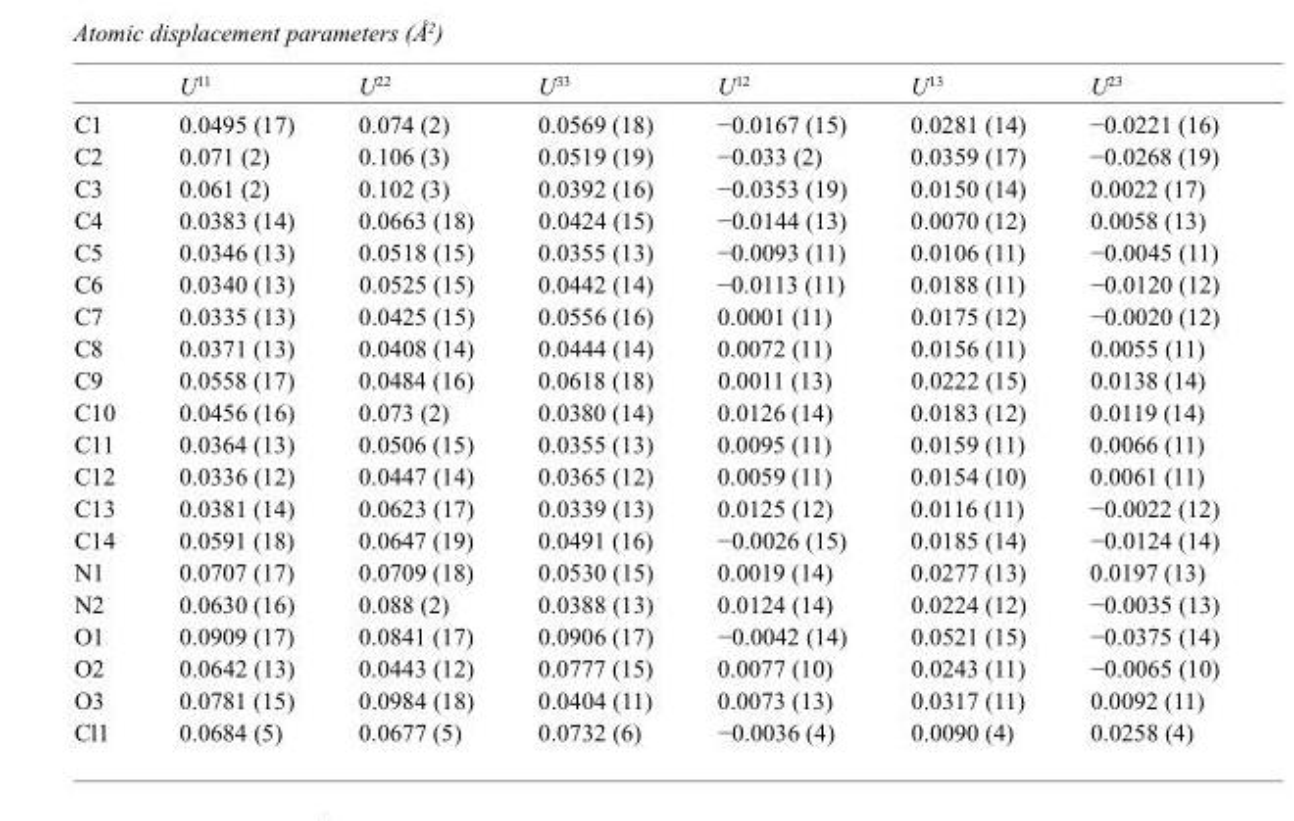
<table><thead><tr><td></td><td>U<sup>11</sup></td><td>U<sup>22</sup></td><td>U<sup>33</sup></td><td>U<sup>12</sup></td><td>U<sup>13</sup></td><td>U<sup>23</sup></td></tr></thead><tbody><tr><td>C1</td><td>0.0495 (17)</td><td>0.074 (2)</td><td>0.0569 (18)</td><td>−0.0167 (15)</td><td>0.0281 (14)</td><td>−0.0221 (16)</td></tr><tr><td>C2</td><td>0.071 (2)</td><td>0.106 (3)</td><td>0.0519 (19)</td><td>−0.033 (2)</td><td>0.0359 (17)</td><td>−0.0268 (19)</td></tr><tr><td>C3</td><td>0.061 (2)</td><td>0.102 (3)</td><td>0.0392 (16)</td><td>−0.0353 (19)</td><td>0.0150 (14)</td><td>0.0022 (17)</td></tr><tr><td>C4</td><td>0.0383 (14)</td><td>0.0663 (18)</td><td>0.0424 (15)</td><td>−0.0144 (13)</td><td>0.0070 (12)</td><td>0.0058 (13)</td></tr><tr><td>C5</td><td>0.0346 (13)</td><td>0.0518 (15)</td><td>0.0355 (13)</td><td>−0.0093 (11)</td><td>0.0106 (11)</td><td>−0.0045 (11)</td></tr><tr><td>C6</td><td>0.0340 (13)</td><td>0.0525 (15)</td><td>0.0442 (14)</td><td>−0.0113 (11)</td><td>0.0188 (11)</td><td>−0.0120 (12)</td></tr><tr><td>C7</td><td>0.0335 (13)</td><td>0.0425 (15)</td><td>0.0556 (16)</td><td>0.0001 (11)</td><td>0.0175 (12)</td><td>−0.0020 (12)</td></tr><tr><td>C8</td><td>0.0371 (13)</td><td>0.0408 (14)</td><td>0.0444 (14)</td><td>0.0072 (11)</td><td>0.0156 (11)</td><td>0.0055 (11)</td></tr><tr><td>C9</td><td>0.0558 (17)</td><td>0.0484 (16)</td><td>0.0618 (18)</td><td>0.0011 (13)</td><td>0.0222 (15)</td><td>0.0138 (14)</td></tr><tr><td>C10</td><td>0.0456 (16)</td><td>0.073 (2)</td><td>0.0380 (14)</td><td>0.0126 (14)</td><td>0.0183 (12)</td><td>0.0119 (14)</td></tr><tr><td>C11</td><td>0.0364 (13)</td><td>0.0506 (15)</td><td>0.0355 (13)</td><td>0.0095 (11)</td><td>0.0159 (11)</td><td>0.0066 (11)</td></tr><tr><td>C12</td><td>0.0336 (12)</td><td>0.0447 (14)</td><td>0.0365 (12)</td><td>0.0059 (11)</td><td>0.0154 (10)</td><td>0.0061 (11)</td></tr><tr><td>C13</td><td>0.0381 (14)</td><td>0.0623 (17)</td><td>0.0339 (13)</td><td>0.0125 (12)</td><td>0.0116 (11)</td><td>−0.0022 (12)</td></tr><tr><td>C14</td><td>0.0591 (18)</td><td>0.0647 (19)</td><td>0.0491 (16)</td><td>−0.0026 (15)</td><td>0.0185 (14)</td><td>−0.0124 (14)</td></tr><tr><td>N1</td><td>0.0707 (17)</td><td>0.0709 (18)</td><td>0.0530 (15)</td><td>0.0019 (14)</td><td>0.0277 (13)</td><td>0.0197 (13)</td></tr><tr><td>N2</td><td>0.0630 (16)</td><td>0.088 (2)</td><td>0.0388 (13)</td><td>0.0124 (14)</td><td>0.0224 (12)</td><td>−0.0035 (13)</td></tr><tr><td>O1</td><td>0.0909 (17)</td><td>0.0841 (17)</td><td>0.0906 (17)</td><td>−0.0042 (14)</td><td>0.0521 (15)</td><td>−0.0375 (14)</td></tr><tr><td>O2</td><td>0.0642 (13)</td><td>0.0443 (12)</td><td>0.0777 (15)</td><td>0.0077 (10)</td><td>0.0243 (11)</td><td>−0.0065 (10)</td></tr><tr><td>O3</td><td>0.0781 (15)</td><td>0.0984 (18)</td><td>0.0404 (11)</td><td>0.0073 (13)</td><td>0.0317 (11)</td><td>0.0092 (11)</td></tr><tr><td>Cl1</td><td>0.0684 (5)</td><td>0.0677 (5)</td><td>0.0732 (6)</td><td>−0.0036 (4)</td><td>0.0090 (4)</td><td>0.0258 (4)</td></tr></tbody></table>